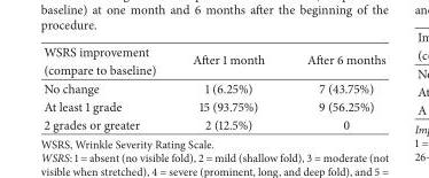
<table><thead><tr><td rowspan="2">WSRS improvement (compare to baseline)</td><td rowspan="2">After 1 month</td><td rowspan="2">After 6 months</td></tr><tr></tr></thead><tbody><tr><td>No change</td><td>1 (6.25%)</td><td>7 (43.75%)</td></tr><tr><td>At least 1 grade</td><td>15 (93.75%)</td><td>9 (56.25%)</td></tr><tr><td>2 grades or greater</td><td>2 (12.5%)</td><td>0</td></tr></tbody></table>